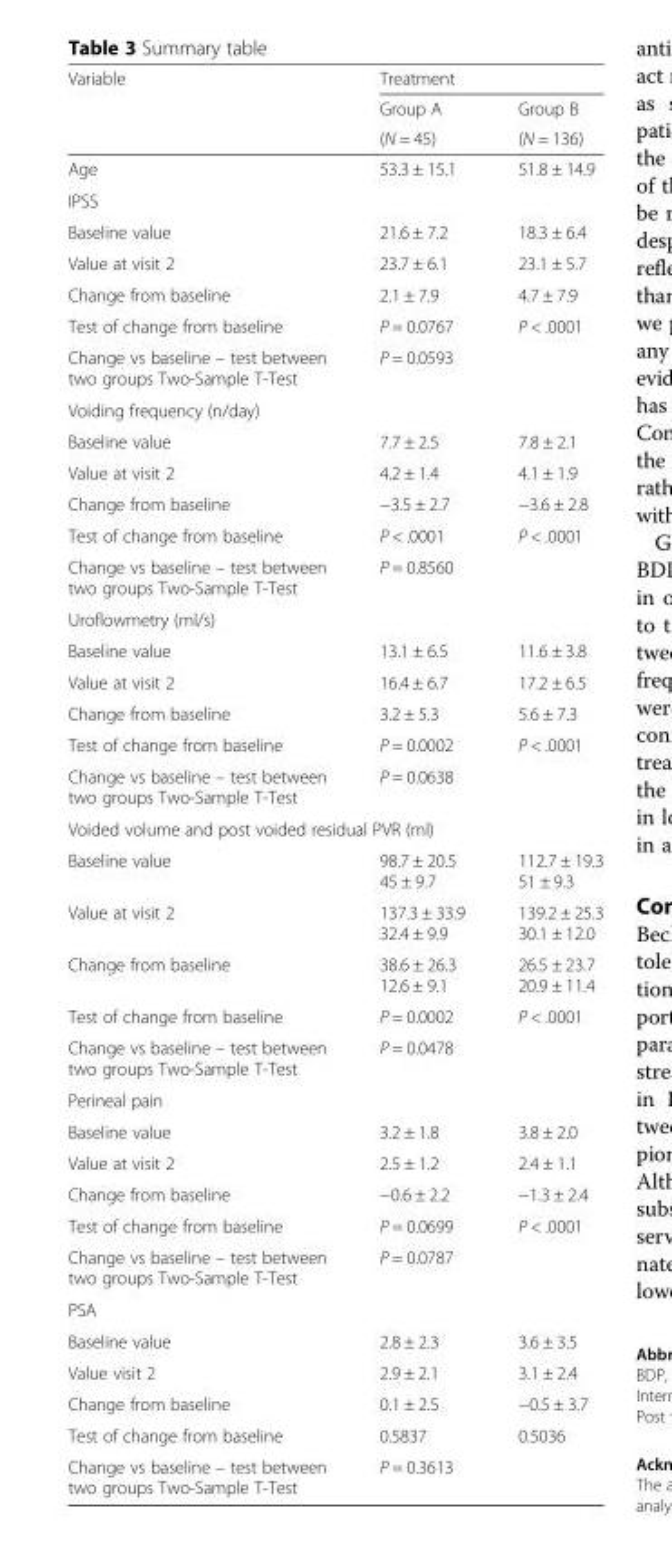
<table><thead><tr><td rowspan="3">Variable</td><td colspan="2">Treatment</td></tr><tr><td rowspan="2">Group A (N = 45)</td><td rowspan="2">Group B (N = 136)</td></tr><tr></tr></thead><tbody><tr><td>Age</td><td>53.3 ± 15.1</td><td>51.8 ± 14.9</td></tr><tr><td colspan="3">IPSS</td></tr><tr><td>Baseline value</td><td>21.6 ± 7.2</td><td>18.3 ± 6.4</td></tr><tr><td>Value at visit 2</td><td>23.7 ± 6.1</td><td>23.1 ± 5.7</td></tr><tr><td>Change from baseline</td><td>2.1 ± 7.9</td><td>4.7 ± 7.9</td></tr><tr><td>Test of change from baseline</td><td>P = 0.0767</td><td>P &lt; .0001</td></tr><tr><td>Change vs baseline – test between two groups Two-Sample T-Test</td><td colspan="2">P = 0.0593</td></tr><tr><td colspan="3">Voiding frequency (n/day)</td></tr><tr><td>Baseline value</td><td>7.7 ± 2.5</td><td>7.8 ± 2.1</td></tr><tr><td>Value at visit 2</td><td>4.2 ± 1.4</td><td>4.1 ± 1.9</td></tr><tr><td>Change from baseline</td><td>−3.5 ± 2.7</td><td>−3.6 ± 2.8</td></tr><tr><td>Test of change from baseline</td><td>P &lt; .0001</td><td>P &lt; .0001</td></tr><tr><td>Change vs baseline – test between two groups Two-Sample T-Test</td><td colspan="2">P = 0.8560</td></tr><tr><td colspan="3">Uroflowmetry (ml/s)</td></tr><tr><td>Baseline value</td><td>13.1 ± 6.5</td><td>11.6 ± 3.8</td></tr><tr><td>Value at visit 2</td><td>16.4 ± 6.7</td><td>17.2 ± 6.5</td></tr><tr><td>Change from baseline</td><td>3.2 ± 5.3</td><td>5.6 ± 7.3</td></tr><tr><td>Test of change from baseline</td><td>P = 0.0002</td><td>P &lt; .0001</td></tr><tr><td>Change vs baseline – test between two groups Two-Sample T-Test</td><td colspan="2">P = 0.0638</td></tr><tr><td colspan="3">Voided volume and post voided residual PVR (ml)</td></tr><tr><td>Baseline value</td><td>98.7 ± 20.5 45 ± 9.7</td><td>112.7 ± 19.3 51 ± 9.3</td></tr><tr><td>Value at visit 2</td><td>137.3 ± 33.9 32.4 ± 9.9</td><td>139.2 ± 25.3 30.1 ± 12.0</td></tr><tr><td>Change from baseline</td><td>38.6 ± 26.3 12.6 ± 9.1</td><td>26.5 ± 23.7 20.9 ± 11.4</td></tr><tr><td>Test of change from baseline</td><td>P = 0.0002</td><td>P &lt; .0001</td></tr><tr><td>Change vs baseline – test between two groups Two-Sample T-Test</td><td colspan="2">P = 0.0478</td></tr><tr><td colspan="3">Perineal pain</td></tr><tr><td>Baseline value</td><td>3.2 ± 1.8</td><td>3.8 ± 2.0</td></tr><tr><td>Value at visit 2</td><td>2.5 ± 1.2</td><td>2.4 ± 1.1</td></tr><tr><td>Change from baseline</td><td>−0.6 ± 2.2</td><td>−1.3 ± 2.4</td></tr><tr><td>Test of change from baseline</td><td>P = 0.0699</td><td>P &lt; .0001</td></tr><tr><td>Change vs baseline – test between two groups Two-Sample T-Test</td><td colspan="2">P = 0.0787</td></tr><tr><td colspan="3">PSA</td></tr><tr><td>Baseline value</td><td>2.8 ± 2.3</td><td>3.6 ± 3.5</td></tr><tr><td>Value visit 2</td><td>2.9 ± 2.1</td><td>3.1 ± 2.4</td></tr><tr><td>Change from baseline</td><td>0.1 ± 2.5</td><td>−0.5 ± 3.7</td></tr><tr><td>Test of change from baseline</td><td>0.5837</td><td>0.5036</td></tr><tr><td>Change vs baseline – test between two groups Two-Sample T-Test</td><td colspan="2">P = 0.3613</td></tr></tbody></table>